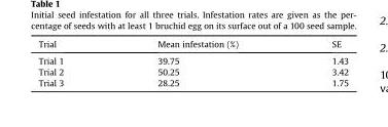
<table><thead><tr><td>Trial</td><td>Mean infestation (%)</td><td>SE</td></tr></thead><tbody><tr><td>Trial 1</td><td>39.75</td><td>1.43</td></tr><tr><td>Trial 2</td><td>50.25</td><td>3.42</td></tr><tr><td>Trial 3</td><td>28.25</td><td>1.75</td></tr></tbody></table>